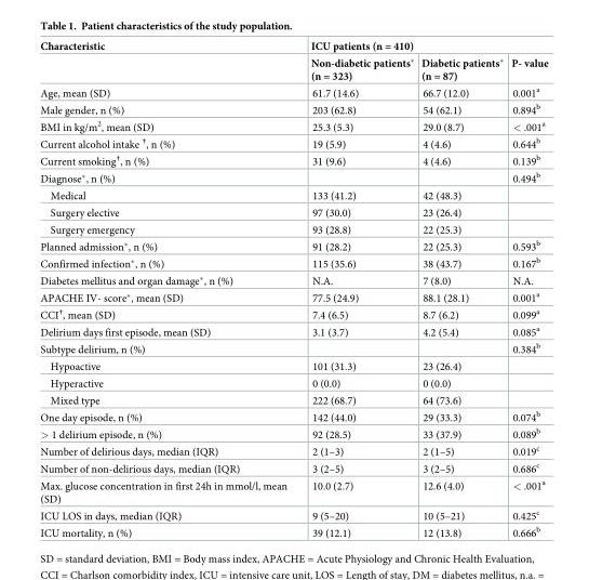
<table><thead><tr><td rowspan="2">Characteristic</td><td colspan="3">ICU patients (n = 410)</td></tr><tr><td>Non-diabetic patients* (n = 323)</td><td>Diabetic patients* (n = 87)</td><td>P- value</td></tr></thead><tbody><tr><td>Age, mean (SD)</td><td>61.7 (14.6)</td><td>66.7 (12.0)</td><td>0.001<sup>a</sup></td></tr><tr><td>Male gender, n (%)</td><td>203 (62.8)</td><td>54 (62.1)</td><td>0.894<sup>b</sup></td></tr><tr><td>BMI in kg/m<sup>2</sup>, mean (SD)</td><td>25.3 (5.3)</td><td>29.0 (8.7)</td><td>&lt; .001<sup>a</sup></td></tr><tr><td>Current alcohol intake <sup>†</sup>, n (%)</td><td>19 (5.9)</td><td>4 (4.6)</td><td>0.644<sup>b</sup></td></tr><tr><td>Current smoking<sup>†</sup>, n (%)</td><td>31 (9.6)</td><td>4 (4.6)</td><td>0.139<sup>b</sup></td></tr><tr><td>Diagnose*, n (%)</td><td></td><td></td><td>0.494<sup>b</sup></td></tr><tr><td>Medical</td><td>133 (41.2)</td><td>42 (48.3)</td><td></td></tr><tr><td>Surgery elective</td><td>97 (30.0)</td><td>23 (26.4)</td><td></td></tr><tr><td>Surgery emergency</td><td>93 (28.8)</td><td>22 (25.3)</td><td></td></tr><tr><td>Planned admission*, n (%)</td><td>91 (28.2)</td><td>22 (25.3)</td><td>0.593<sup>b</sup></td></tr><tr><td>Confirmed infection*, n (%)</td><td>115 (35.6)</td><td>38 (43.7)</td><td>0.167<sup>b</sup></td></tr><tr><td>Diabetes mellitus and organ damage*, n (%)</td><td>N.A.</td><td>7 (8.0)</td><td>N.A.</td></tr><tr><td>APACHE IV- score*, mean (SD)</td><td>77.5 (24.9)</td><td>88.1 (28.1)</td><td>0.001<sup>a</sup></td></tr><tr><td>CCI<sup>†</sup>, mean (SD)</td><td>7.4 (6.5)</td><td>8.7 (6.2)</td><td>0.099<sup>a</sup></td></tr><tr><td>Delirium days first episode, mean (SD)</td><td>3.1 (3.7)</td><td>4.2 (5.4)</td><td>0.085<sup>a</sup></td></tr><tr><td>Subtype delirium, n (%)</td><td></td><td></td><td>0.384<sup>b</sup></td></tr><tr><td>Hypoactive</td><td>101 (31.3)</td><td>23 (26.4)</td><td></td></tr><tr><td>Hyperactive</td><td>0 (0.0)</td><td>0 (0.0)</td><td></td></tr><tr><td>Mixed type</td><td>222 (68.7)</td><td>64 (73.6)</td><td></td></tr><tr><td>One day episode, n (%)</td><td>142 (44.0)</td><td>29 (33.3)</td><td>0.074<sup>b</sup></td></tr><tr><td>&gt; 1 delirium episode, n (%)</td><td>92 (28.5)</td><td>33 (37.9)</td><td>0.089<sup>b</sup></td></tr><tr><td>Number of delirious days, median (IQR)</td><td>2 (1–3)</td><td>2 (1–5)</td><td>0.019<sup>c</sup></td></tr><tr><td>Number of non-delirious days, median (IQR)</td><td>3 (2–5)</td><td>3 (2–5)</td><td>0.686<sup>c</sup></td></tr><tr><td>Max. glucose concentration in first 24h in mmol/l, mean (SD)</td><td>10.0 (2.7)</td><td>12.6 (4.0)</td><td>&lt; .001<sup>a</sup></td></tr><tr><td>ICU LOS in days, median (IQR)</td><td>9 (5–20)</td><td>10 (5–21)</td><td>0.425<sup>c</sup></td></tr><tr><td>ICU mortality, n (%)</td><td>39 (12.1)</td><td>12 (13.8)</td><td>0.666<sup>b</sup></td></tr></tbody></table>